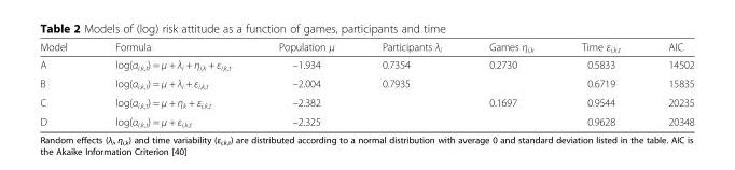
<table><thead><tr><td>Model</td><td>Formula</td><td>Population μ</td><td>Participants λ<sub>i</sub></td><td>Games η<sub>i,k</sub></td><td>Time ε<sub>i,k,t</sub></td><td>AIC</td></tr></thead><tbody><tr><td>A</td><td>log(α<sub>i,k,t</sub>) = μ + λ<sub>i</sub> + η<sub>i,k</sub> + ε<sub>i,k,t</sub></td><td>–1.934</td><td>0.7354</td><td>0.2730</td><td>0.5833</td><td>14502</td></tr><tr><td>B</td><td>log(α<sub>i,k,t</sub>) = μ + λ<sub>i</sub> + ε<sub>i,k,t</sub></td><td>–2.004</td><td>0.7935</td><td></td><td>0.6719</td><td>15835</td></tr><tr><td>C</td><td>log(α<sub>i,k,t</sub>) = μ + η<sub>k</sub> + ε<sub>i,k,t</sub></td><td>–2.382</td><td></td><td>0.1697</td><td>0.9544</td><td>20235</td></tr><tr><td>D</td><td>log(α<sub>i,k,t</sub>) = μ + ε<sub>i,k,t</sub></td><td>–2.325</td><td></td><td></td><td>0.9628</td><td>20348</td></tr></tbody></table>